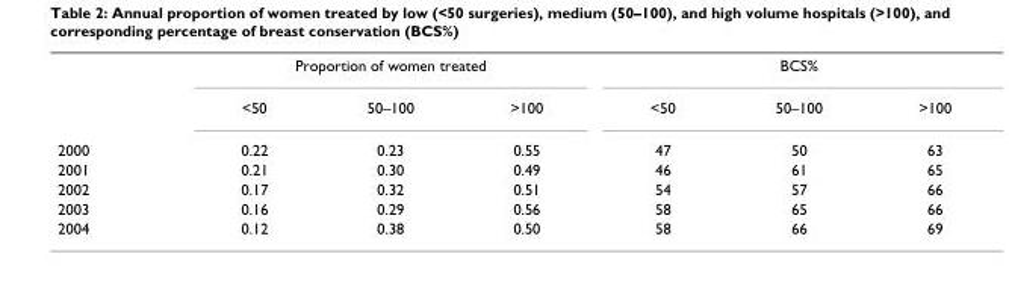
<table><thead><tr><td rowspan="2"></td><td colspan="3">Proportion of women treated</td><td colspan="3">BCS%</td></tr><tr><td>&lt;50</td><td>50–100</td><td>&gt;100</td><td>&lt;50</td><td>50–100</td><td>&gt;100</td></tr></thead><tbody><tr><td>2000</td><td>0.22</td><td>0.23</td><td>0.55</td><td>47</td><td>50</td><td>63</td></tr><tr><td>2001</td><td>0.21</td><td>0.30</td><td>0.49</td><td>46</td><td>61</td><td>65</td></tr><tr><td>2002</td><td>0.17</td><td>0.32</td><td>0.51</td><td>54</td><td>57</td><td>66</td></tr><tr><td>2003</td><td>0.16</td><td>0.29</td><td>0.56</td><td>58</td><td>65</td><td>66</td></tr><tr><td>2004</td><td>0.12</td><td>0.38</td><td>0.50</td><td>58</td><td>66</td><td>69</td></tr></tbody></table>